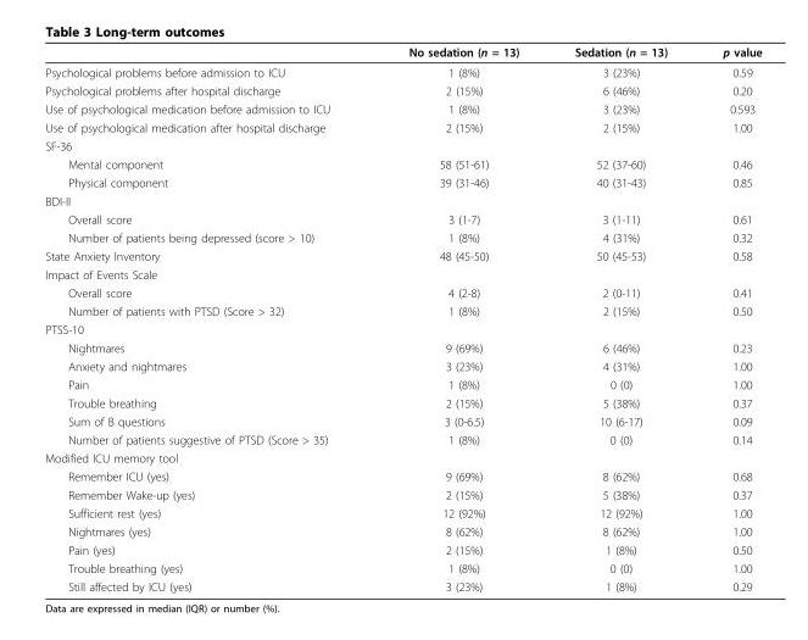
<table><thead><tr><td></td><td>No sedation (n = 13)</td><td>Sedation (n = 13)</td><td>p value</td></tr></thead><tbody><tr><td>Psychological problems before admission to ICU</td><td>1 (8%)</td><td>3 (23%)</td><td>0.59</td></tr><tr><td>Psychological problems after hospital discharge</td><td>2 (15%)</td><td>6 (46%)</td><td>0.20</td></tr><tr><td>Use of psychological medication before admission to ICU</td><td>1 (8%)</td><td>3 (23%)</td><td>0.593</td></tr><tr><td>Use of psychological medication after hospital discharge</td><td>2 (15%)</td><td>2 (15%)</td><td>1.00</td></tr><tr><td colspan="4">SF-36</td></tr><tr><td>Mental component</td><td>58 (51-61)</td><td>52 (37-60)</td><td>0.46</td></tr><tr><td>Physical component</td><td>39 (31-46)</td><td>40 (31-43)</td><td>0.85</td></tr><tr><td colspan="4">BDI-II</td></tr><tr><td>Overall score</td><td>3 (1-7)</td><td>3 (1-11)</td><td>0.61</td></tr><tr><td>Number of patients being depressed (score &gt; 10)</td><td>1 (8%)</td><td>4 (31%)</td><td>0.32</td></tr><tr><td>State Anxiety Inventory</td><td>48 (45-50)</td><td>50 (45-53)</td><td>0.58</td></tr><tr><td colspan="4">Impact of Events Scale</td></tr><tr><td>Overall score</td><td>4 (2-8)</td><td>2 (0-11)</td><td>0.41</td></tr><tr><td>Number of patients with PTSD (Score &gt; 32)</td><td>1 (8%)</td><td>2 (15%)</td><td>0.50</td></tr><tr><td colspan="4">PTSS-10</td></tr><tr><td>Nightmares</td><td>9 (69%)</td><td>6 (46%)</td><td>0.23</td></tr><tr><td>Anxiety and nightmares</td><td>3 (23%)</td><td>4 (31%)</td><td>1.00</td></tr><tr><td>Pain</td><td>1 (8%)</td><td>0 (0)</td><td>1.00</td></tr><tr><td>Trouble breathing</td><td>2 (15%)</td><td>5 (38%)</td><td>0.37</td></tr><tr><td>Sum of B questions</td><td>3 (0-6.5)</td><td>10 (6-17)</td><td>0.09</td></tr><tr><td>Number of patients suggestive of PTSD (Score &gt; 35)</td><td>1 (8%)</td><td>0 (0)</td><td>0.14</td></tr><tr><td colspan="4">Modified ICU memory tool</td></tr><tr><td>Remember ICU (yes)</td><td>9 (69%)</td><td>8 (62%)</td><td>0.68</td></tr><tr><td>Remember Wake-up (yes)</td><td>2 (15%)</td><td>5 (38%)</td><td>0.37</td></tr><tr><td>Sufficient rest (yes)</td><td>12 (92%)</td><td>12 (92%)</td><td>1.00</td></tr><tr><td>Nightmares (yes)</td><td>8 (62%)</td><td>8 (62%)</td><td>1.00</td></tr><tr><td>Pain (yes)</td><td>2 (15%)</td><td>1 (8%)</td><td>0.50</td></tr><tr><td>Trouble breathing (yes)</td><td>1 (8%)</td><td>0 (0)</td><td>1.00</td></tr><tr><td>Still affected by ICU (yes)</td><td>3 (23%)</td><td>1 (8%)</td><td>0.29</td></tr></tbody></table>